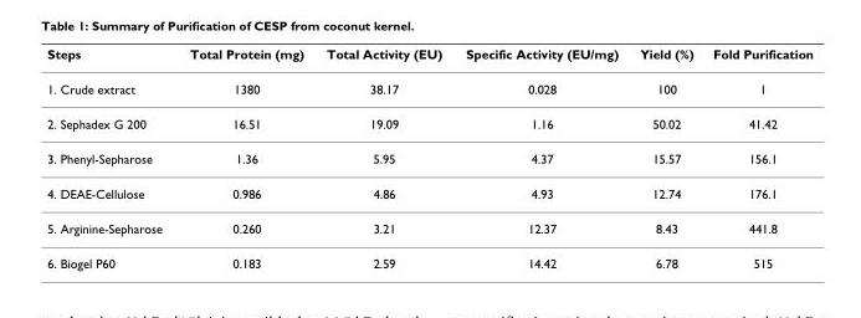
<table><thead><tr><td>Steps</td><td>Total Protein (mg)</td><td>Total Activity (EU)</td><td>Specific Activity (EU/mg)</td><td>Yield (%)</td><td>Fold Purification</td></tr></thead><tbody><tr><td>1. Crude extract</td><td>1380</td><td>38.17</td><td>0.028</td><td>100</td><td>1</td></tr><tr><td>2. Sephadex G 200</td><td>16.51</td><td>19.09</td><td>1.16</td><td>50.02</td><td>41.42</td></tr><tr><td>3. Phenyl-Sepharose</td><td>1.36</td><td>5.95</td><td>4.37</td><td>15.57</td><td>156.1</td></tr><tr><td>4. DEAE-Cellulose</td><td>0.986</td><td>4.86</td><td>4.93</td><td>12.74</td><td>176.1</td></tr><tr><td>5. Arginine-Sepharose</td><td>0.260</td><td>3.21</td><td>12.37</td><td>8.43</td><td>441.8</td></tr><tr><td>6. Biogel P60</td><td>0.183</td><td>2.59</td><td>14.42</td><td>6.78</td><td>515</td></tr></tbody></table>